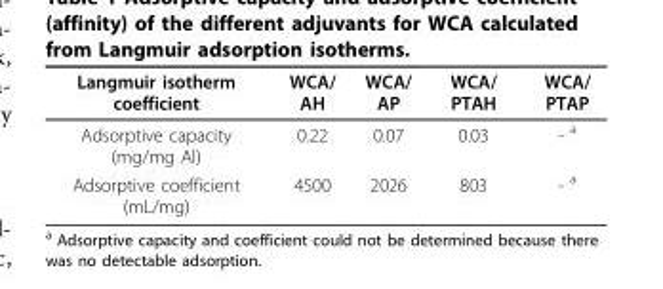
<table><thead><tr><td>Langmuir isotherm coefficient</td><td>WCA/ AH</td><td>WCA/ AP</td><td>WCA/ PTAH</td><td>WCA/ PTAP</td></tr></thead><tbody><tr><td>Adsorptive capacity (mg/mg Al)</td><td>0.22</td><td>0.07</td><td>0.03</td><td>- <sup>a</sup></td></tr><tr><td>Adsorptive coefficient (mL/mg)</td><td>4500</td><td>2026</td><td>803</td><td>- <sup>a</sup></td></tr></tbody></table>